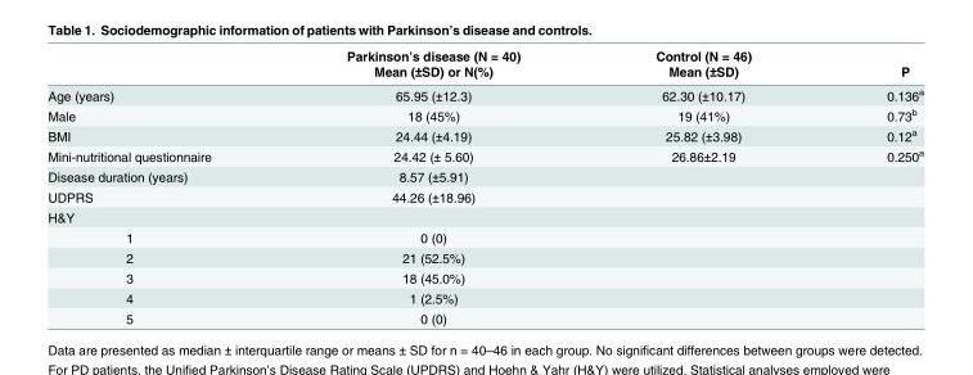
<table><thead><tr><td rowspan="2"></td><td rowspan="2">Parkinson’s disease (N = 40) Mean (±SD) or N(%)</td><td rowspan="2">Control (N = 46) Mean (±SD)</td><td rowspan="2">P</td></tr><tr></tr></thead><tbody><tr><td>Age (years)</td><td>65.95 (±12.3)</td><td>62.30 (±10.17)</td><td>0.136<sup>a</sup></td></tr><tr><td>Male</td><td>18 (45%)</td><td>19 (41%)</td><td>0.73<sup>b</sup></td></tr><tr><td>BMI</td><td>24.44 (±4.19)</td><td>25.82 (±3.98)</td><td>0.12<sup>a</sup></td></tr><tr><td>Mini-nutritional questionnaire</td><td>24.42 (± 5.60)</td><td>26.86±2.19</td><td>0.250<sup>a</sup></td></tr><tr><td>Disease duration (years)</td><td>8.57 (±5.91)</td><td></td><td></td></tr><tr><td>UDPRS</td><td>44.26 (±18.96)</td><td></td><td></td></tr><tr><td colspan="4">H&amp;Y</td></tr><tr><td>1</td><td>0 (0)</td><td></td><td></td></tr><tr><td>2</td><td>21 (52.5%)</td><td></td><td></td></tr><tr><td>3</td><td>18 (45.0%)</td><td></td><td></td></tr><tr><td>4</td><td>1 (2.5%)</td><td></td><td></td></tr><tr><td>5</td><td>0 (0)</td><td></td><td></td></tr></tbody></table>